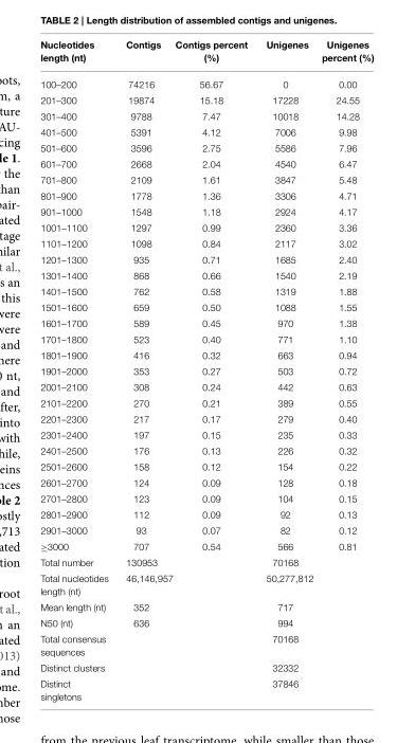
<table><thead><tr><td>Nucleotides length (nt)</td><td>Contigs</td><td>Contigs percent (%)</td><td>Unigenes</td><td>Unigenes percent (%)</td></tr></thead><tbody><tr><td>100–200</td><td>74216</td><td>56.67</td><td>0</td><td>0.00</td></tr><tr><td>201–300</td><td>19874</td><td>15.18</td><td>17228</td><td>24.55</td></tr><tr><td>301–400</td><td>9788</td><td>7.47</td><td>10018</td><td>14.28</td></tr><tr><td>401–500</td><td>5391</td><td>4.12</td><td>7006</td><td>9.98</td></tr><tr><td>501–600</td><td>3596</td><td>2.75</td><td>5586</td><td>7.96</td></tr><tr><td>601–700</td><td>2668</td><td>2.04</td><td>4540</td><td>6.47</td></tr><tr><td>701–800</td><td>2109</td><td>1.61</td><td>3847</td><td>5.48</td></tr><tr><td>801–900</td><td>1778</td><td>1.36</td><td>3306</td><td>4.71</td></tr><tr><td>901–1000</td><td>1548</td><td>1.18</td><td>2924</td><td>4.17</td></tr><tr><td>1001–1100</td><td>1297</td><td>0.99</td><td>2360</td><td>3.36</td></tr><tr><td>1101–1200</td><td>1098</td><td>0.84</td><td>2117</td><td>3.02</td></tr><tr><td>1201–1300</td><td>935</td><td>0.71</td><td>1685</td><td>2.40</td></tr><tr><td>1301–1400</td><td>868</td><td>0.66</td><td>1540</td><td>2.19</td></tr><tr><td>1401–1500</td><td>762</td><td>0.58</td><td>1319</td><td>1.88</td></tr><tr><td>1501–1600</td><td>659</td><td>0.50</td><td>1088</td><td>1.55</td></tr><tr><td>1601–1700</td><td>589</td><td>0.45</td><td>970</td><td>1.38</td></tr><tr><td>1701–1800</td><td>523</td><td>0.40</td><td>771</td><td>1.10</td></tr><tr><td>1801–1900</td><td>416</td><td>0.32</td><td>663</td><td>0.94</td></tr><tr><td>1901–2000</td><td>353</td><td>0.27</td><td>503</td><td>0.72</td></tr><tr><td>2001–2100</td><td>308</td><td>0.24</td><td>442</td><td>0.63</td></tr><tr><td>2101–2200</td><td>270</td><td>0.21</td><td>389</td><td>0.55</td></tr><tr><td>2201–2300</td><td>217</td><td>0.17</td><td>279</td><td>0.40</td></tr><tr><td>2301–2400</td><td>197</td><td>0.15</td><td>235</td><td>0.33</td></tr><tr><td>2401–2500</td><td>176</td><td>0.13</td><td>226</td><td>0.32</td></tr><tr><td>2501–2600</td><td>158</td><td>0.12</td><td>154</td><td>0.22</td></tr><tr><td>2601–2700</td><td>124</td><td>0.09</td><td>128</td><td>0.18</td></tr><tr><td>2701–2800</td><td>123</td><td>0.09</td><td>104</td><td>0.15</td></tr><tr><td>2801–2900</td><td>112</td><td>0.09</td><td>92</td><td>0.13</td></tr><tr><td>2901–3000</td><td>93</td><td>0.07</td><td>82</td><td>0.12</td></tr><tr><td>≥3000</td><td>707</td><td>0.54</td><td>566</td><td>0.81</td></tr><tr><td>Total number</td><td>130953</td><td></td><td>70168</td><td></td></tr><tr><td>Total nucleotides length (nt)</td><td>46,146,957</td><td></td><td>50,277,812</td><td></td></tr><tr><td>Mean length (nt)</td><td>352</td><td></td><td>717</td><td></td></tr><tr><td>N50 (nt)</td><td>636</td><td></td><td>994</td><td></td></tr><tr><td>Total consensus sequences</td><td></td><td></td><td>70168</td><td></td></tr><tr><td>Distinct clusters</td><td></td><td></td><td>32332</td><td></td></tr><tr><td>Distinct singletons</td><td></td><td></td><td>37846</td><td></td></tr></tbody></table>